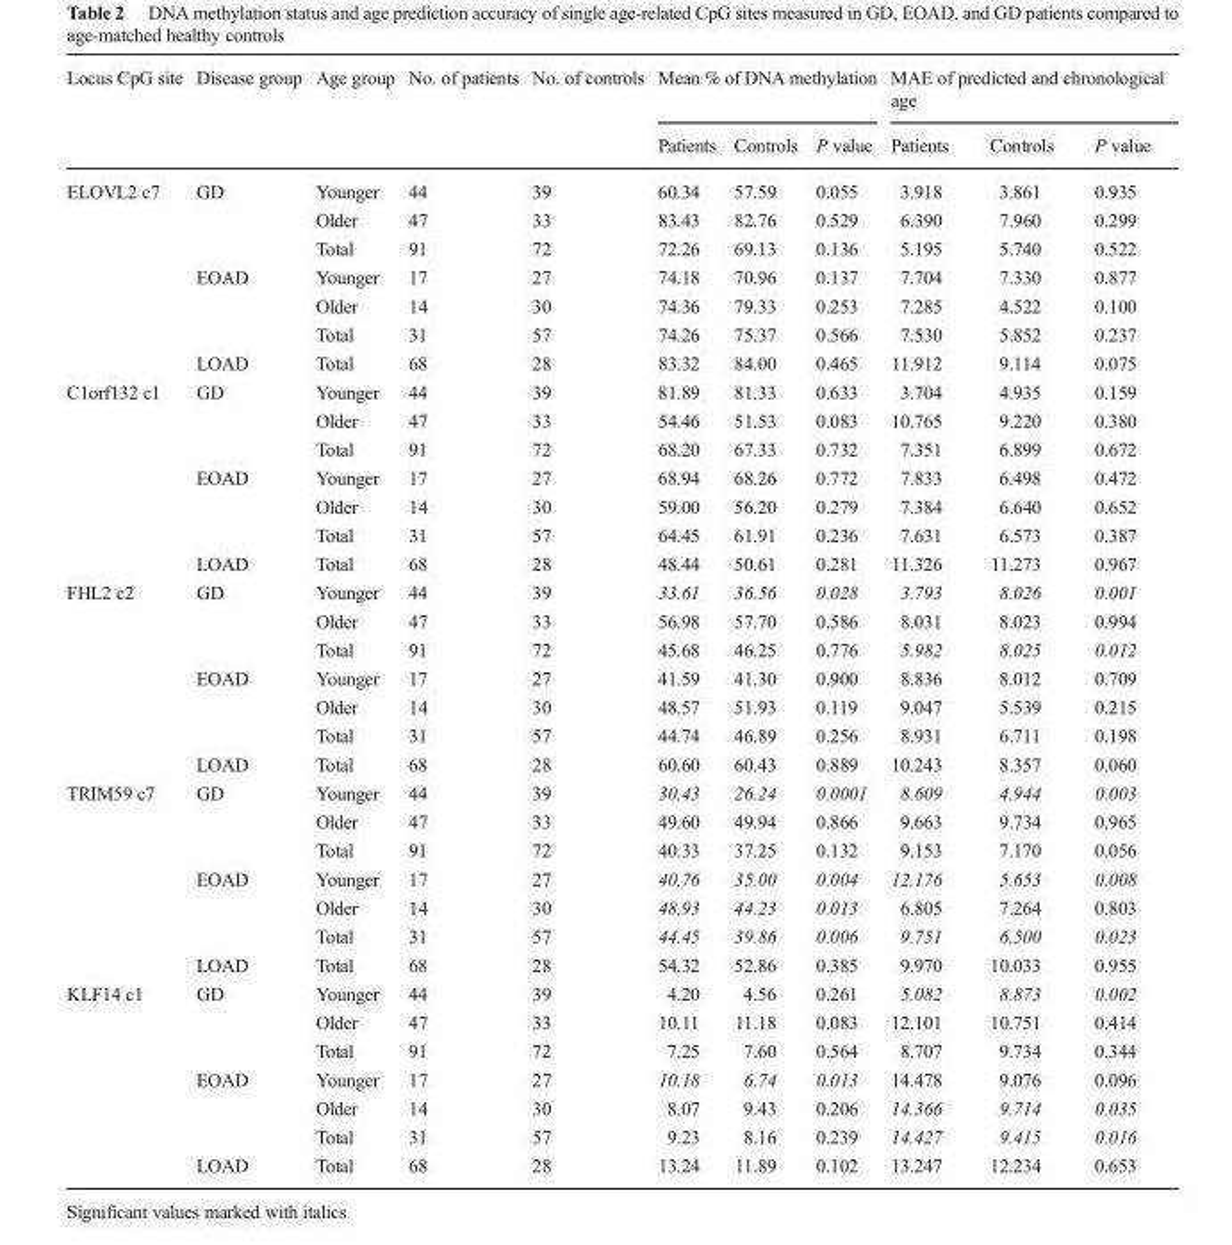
<table><thead><tr><td rowspan="2">Locus CpG site</td><td rowspan="2">Disease group</td><td rowspan="2">Age group</td><td rowspan="2">No. of patients</td><td rowspan="2">No. of controls</td><td colspan="3">Mean % of DNA methylation</td><td colspan="3">MAE of predicted and chronological age</td></tr><tr><td>Patients</td><td>Controls</td><td>P value</td><td>Patients</td><td>Controls</td><td>P value</td></tr></thead><tbody><tr><td rowspan="7">ELOVL2 c7</td><td rowspan="3">GD</td><td>Younger</td><td>44</td><td>39</td><td>60.34</td><td>57.59</td><td>0.055</td><td>3.918</td><td>3.861</td><td>0.935</td></tr><tr><td>Older</td><td>47</td><td>33</td><td>83.43</td><td>82.76</td><td>0.529</td><td>6.390</td><td>7.960</td><td>0.299</td></tr><tr><td>Total</td><td>91</td><td>72</td><td>72.26</td><td>69.13</td><td>0.136</td><td>5.195</td><td>5.740</td><td>0.522</td></tr><tr><td rowspan="3">EOAD</td><td>Younger</td><td>17</td><td>27</td><td>74.18</td><td>70.96</td><td>0.137</td><td>7.704</td><td>7.330</td><td>0.877</td></tr><tr><td>Older</td><td>14</td><td>30</td><td>74.36</td><td>79.33</td><td>0.253</td><td>7.285</td><td>4.522</td><td>0.100</td></tr><tr><td>Total</td><td>31</td><td>57</td><td>74.26</td><td>75.37</td><td>0.566</td><td>7.530</td><td>5.852</td><td>0.237</td></tr><tr><td>LOAD</td><td>Total</td><td>68</td><td>28</td><td>83.32</td><td>84.00</td><td>0.465</td><td>11.912</td><td>9.114</td><td>0.075</td></tr><tr><td rowspan="7">C1orf132 c1</td><td rowspan="3">GD</td><td>Younger</td><td>44</td><td>39</td><td>81.89</td><td>81.33</td><td>0.633</td><td>3.704</td><td>4.935</td><td>0.159</td></tr><tr><td>Older</td><td>47</td><td>33</td><td>54.46</td><td>51.53</td><td>0.083</td><td>10.765</td><td>9.220</td><td>0.380</td></tr><tr><td>Total</td><td>91</td><td>72</td><td>68.20</td><td>67.33</td><td>0.732</td><td>7.351</td><td>6.899</td><td>0.672</td></tr><tr><td rowspan="3">EOAD</td><td>Younger</td><td>17</td><td>27</td><td>68.94</td><td>68.26</td><td>0.772</td><td>7.833</td><td>6.498</td><td>0.472</td></tr><tr><td>Older</td><td>14</td><td>30</td><td>59.00</td><td>56.20</td><td>0.279</td><td>7.384</td><td>6.640</td><td>0.652</td></tr><tr><td>Total</td><td>31</td><td>57</td><td>64.45</td><td>61.91</td><td>0.236</td><td>7.631</td><td>6.573</td><td>0.387</td></tr><tr><td>LOAD</td><td>Total</td><td>68</td><td>28</td><td>48.44</td><td>50.61</td><td>0.281</td><td>11.326</td><td>11.273</td><td>0.967</td></tr><tr><td rowspan="7">FHL2 c2</td><td rowspan="3">GD</td><td>Younger</td><td>44</td><td>39</td><td>33.61</td><td>36.56</td><td>0.028</td><td>3.793</td><td>8.026</td><td>0.001</td></tr><tr><td>Older</td><td>47</td><td>33</td><td>56.98</td><td>57.70</td><td>0.586</td><td>8.031</td><td>8.023</td><td>0.994</td></tr><tr><td>Total</td><td>91</td><td>72</td><td>45.68</td><td>46.25</td><td>0.776</td><td>5.982</td><td>8.025</td><td>0.012</td></tr><tr><td rowspan="3">EOAD</td><td>Younger</td><td>17</td><td>27</td><td>41.59</td><td>41.30</td><td>0.900</td><td>8.836</td><td>8.012</td><td>0.709</td></tr><tr><td>Older</td><td>14</td><td>30</td><td>48.57</td><td>51.93</td><td>0.119</td><td>9.047</td><td>5.539</td><td>0.215</td></tr><tr><td>Total</td><td>31</td><td>57</td><td>44.74</td><td>46.89</td><td>0.256</td><td>8.931</td><td>6.711</td><td>0.198</td></tr><tr><td>LOAD</td><td>Total</td><td>68</td><td>28</td><td>60.60</td><td>60.43</td><td>0.889</td><td>10.243</td><td>8.357</td><td>0.060</td></tr><tr><td rowspan="7">TRIM59 c7</td><td rowspan="3">GD</td><td>Younger</td><td>44</td><td>39</td><td>30.43</td><td>26.24</td><td>0.0001</td><td>8.609</td><td>4.944</td><td>0.003</td></tr><tr><td>Older</td><td>47</td><td>33</td><td>49.60</td><td>49.94</td><td>0.866</td><td>9.663</td><td>9.734</td><td>0.965</td></tr><tr><td>Total</td><td>91</td><td>72</td><td>40.33</td><td>37.25</td><td>0.132</td><td>9.153</td><td>7.170</td><td>0.056</td></tr><tr><td rowspan="3">EOAD</td><td>Younger</td><td>17</td><td>27</td><td>40.76</td><td>35.00</td><td>0.004</td><td>12.176</td><td>5.653</td><td>0.008</td></tr><tr><td>Older</td><td>14</td><td>30</td><td>48.93</td><td>44.23</td><td>0.013</td><td>6.805</td><td>7.264</td><td>0.803</td></tr><tr><td>Total</td><td>31</td><td>57</td><td>44.45</td><td>39.86</td><td>0.006</td><td>9.751</td><td>6.500</td><td>0.023</td></tr><tr><td>LOAD</td><td>Total</td><td>68</td><td>28</td><td>54.32</td><td>52.86</td><td>0.385</td><td>9.970</td><td>10.033</td><td>0.955</td></tr><tr><td rowspan="7">KLF14 c1</td><td rowspan="3">GD</td><td>Younger</td><td>44</td><td>39</td><td>4.20</td><td>4.56</td><td>0.261</td><td>5.082</td><td>8.873</td><td>0.002</td></tr><tr><td>Older</td><td>47</td><td>33</td><td>10.11</td><td>11.18</td><td>0.083</td><td>12.101</td><td>10.751</td><td>0.414</td></tr><tr><td>Total</td><td>91</td><td>72</td><td>7.25</td><td>7.60</td><td>0.564</td><td>8.707</td><td>9.734</td><td>0.344</td></tr><tr><td rowspan="3">EOAD</td><td>Younger</td><td>17</td><td>27</td><td>10.18</td><td>6.74</td><td>0.013</td><td>14.478</td><td>9.076</td><td>0.096</td></tr><tr><td>Older</td><td>14</td><td>30</td><td>8.07</td><td>9.43</td><td>0.206</td><td>14.366</td><td>9.714</td><td>0.035</td></tr><tr><td>Total</td><td>31</td><td>57</td><td>9.23</td><td>8.16</td><td>0.239</td><td>14.427</td><td>9.415</td><td>0.016</td></tr><tr><td>LOAD</td><td>Total</td><td>68</td><td>28</td><td>13.24</td><td>11.89</td><td>0.102</td><td>13.247</td><td>12.234</td><td>0.653</td></tr></tbody></table>